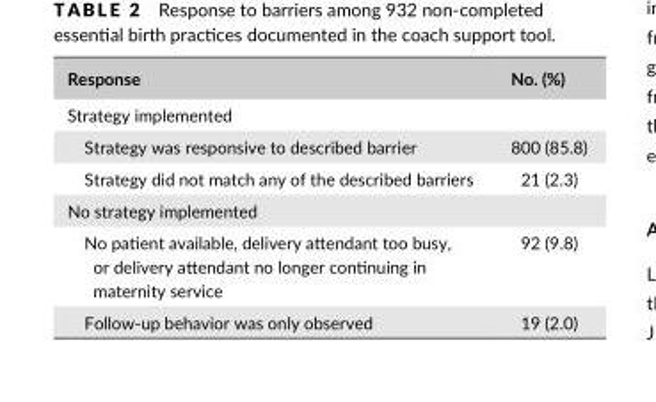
<table><thead><tr><td>Response</td><td>No. (%)</td></tr></thead><tbody><tr><td colspan="2">Strategy implemented</td></tr><tr><td>Strategy was responsive to described barrier</td><td>800 (85.8)</td></tr><tr><td>Strategy did not match any of the described barriers</td><td>21 (2.3)</td></tr><tr><td colspan="2">No strategy implemented</td></tr><tr><td>No patient available, delivery attendant too busy, or delivery attendant no longer continuing in maternity service</td><td>92 (9.8)</td></tr><tr><td>Follow- up behavior was only observed</td><td>19 (2.0)</td></tr></tbody></table>